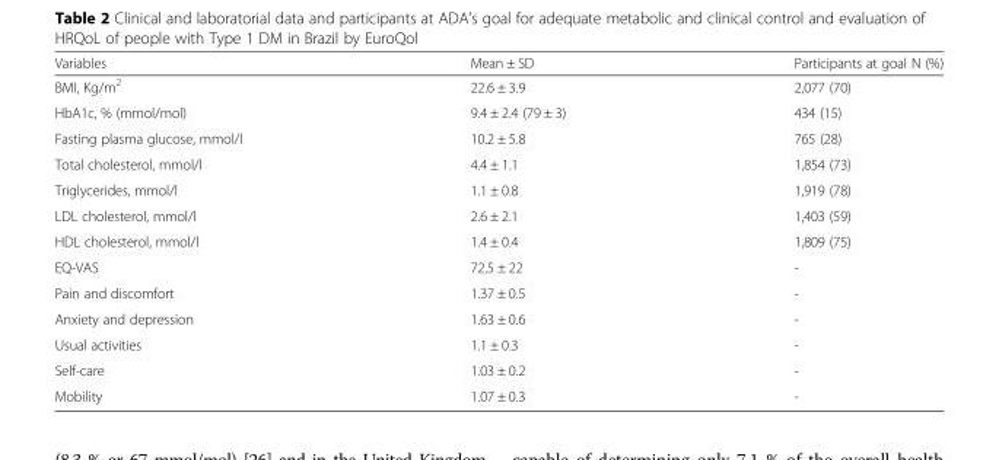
<table><thead><tr><td>Variables</td><td>Mean ± SD</td><td>Participants at goal N (%)</td></tr></thead><tbody><tr><td>BMI, Kg/m<sup>2</sup></td><td>22.6 ± 3.9</td><td>2,077 (70)</td></tr><tr><td>HbA1c, % (mmol/mol)</td><td>9.4 ± 2.4 (79 ± 3)</td><td>434 (15)</td></tr><tr><td>Fasting plasma glucose, mmol/l</td><td>10.2 ± 5.8</td><td>765 (28)</td></tr><tr><td>Total cholesterol, mmol/l</td><td>4.4 ± 1.1</td><td>1,854 (73)</td></tr><tr><td>Triglycerides, mmol/l</td><td>1.1 ± 0.8</td><td>1,919 (78)</td></tr><tr><td>LDL cholesterol, mmol/l</td><td>2.6 ± 2.1</td><td>1,403 (59)</td></tr><tr><td>HDL cholesterol, mmol/l</td><td>1.4 ± 0.4</td><td>1,809 (75)</td></tr><tr><td>EQ-VAS</td><td>72.5 ± 22</td><td>-</td></tr><tr><td>Pain and discomfort</td><td>1.37 ± 0.5</td><td>-</td></tr><tr><td>Anxiety and depression</td><td>1.63 ± 0.6</td><td>-</td></tr><tr><td>Usual activities</td><td>1.1 ± 0.3</td><td>-</td></tr><tr><td>Self-care</td><td>1.03 ± 0.2</td><td>-</td></tr><tr><td>Mobility</td><td>1.07 ± 0.3</td><td>-</td></tr></tbody></table>